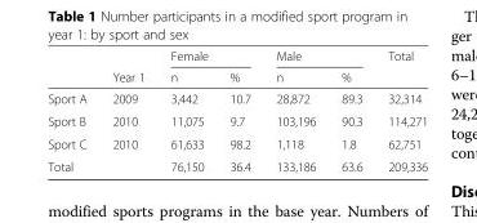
<table><thead><tr><td rowspan="2"></td><td rowspan="2">Year 1</td><td colspan="2">Female</td><td colspan="2">Male</td><td rowspan="2">Total</td></tr><tr><td>n</td><td>%</td><td>n</td><td>%</td></tr></thead><tbody><tr><td>Sport A</td><td>2009</td><td>3,442</td><td>10.7</td><td>28,872</td><td>89.3</td><td>32,314</td></tr><tr><td>Sport B</td><td>2010</td><td>11,075</td><td>9.7</td><td>103,196</td><td>90.3</td><td>114,271</td></tr><tr><td>Sport C</td><td>2010</td><td>61,633</td><td>98.2</td><td>1,118</td><td>1.8</td><td>62,751</td></tr><tr><td>Total</td><td></td><td>76,150</td><td>36.4</td><td>133,186</td><td>63.6</td><td>209,336</td></tr></tbody></table>